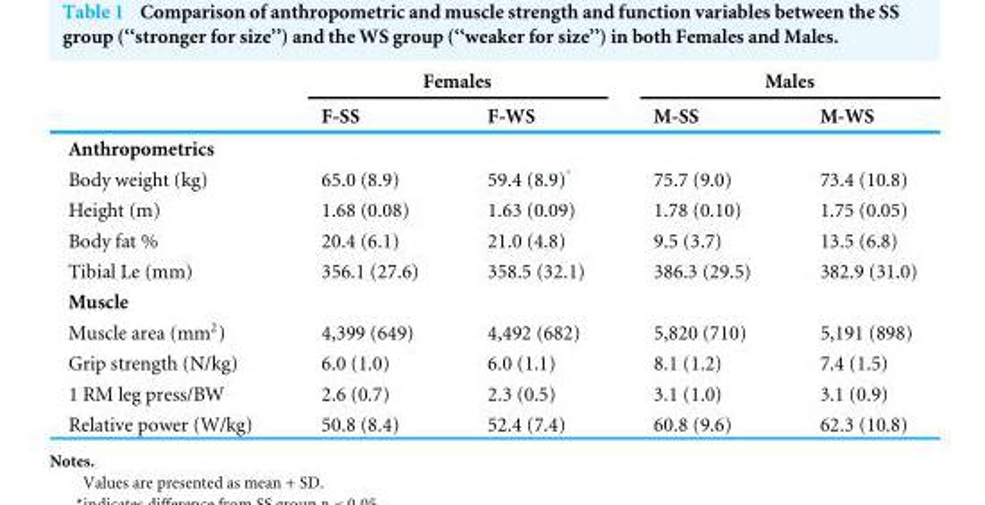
<table><thead><tr><td rowspan="2"></td><td colspan="2">Females</td><td colspan="2">Males</td></tr><tr><td>F-SS</td><td>F-WS</td><td>M-SS</td><td>M-WS</td></tr></thead><tbody><tr><td colspan="5">Anthropometrics</td></tr><tr><td>Body weight (kg)</td><td>65.0 (8.9)</td><td>59.4 (8.9)*</td><td>75.7 (9.0)</td><td>73.4 (10.8)</td></tr><tr><td>Height (m)</td><td>1.68 (0.08)</td><td>1.63 (0.09)</td><td>1.78 (0.10)</td><td>1.75 (0.05)</td></tr><tr><td>Body fat %</td><td>20.4 (6.1)</td><td>21.0 (4.8)</td><td>9.5 (3.7)</td><td>13.5 (6.8)</td></tr><tr><td>Tibial Le (mm)</td><td>356.1 (27.6)</td><td>358.5 (32.1)</td><td>386.3 (29.5)</td><td>382.9 (31.0)</td></tr><tr><td colspan="5">Muscle</td></tr><tr><td>Muscle area (mm<sup>2</sup>)</td><td>4,399 (649)</td><td>4,492 (682)</td><td>5,820 (710)</td><td>5,191 (898)</td></tr><tr><td>Grip strength (N/kg)</td><td>6.0 (1.0)</td><td>6.0 (1.1)</td><td>8.1 (1.2)</td><td>7.4 (1.5)</td></tr><tr><td>1 RM leg press/BW</td><td>2.6 (0.7)</td><td>2.3 (0.5)</td><td>3.1 (1.0)</td><td>3.1 (0.9)</td></tr><tr><td>Relative power (W/kg)</td><td>50.8 (8.4)</td><td>52.4 (7.4)</td><td>60.8 (9.6)</td><td>62.3 (10.8)</td></tr></tbody></table>